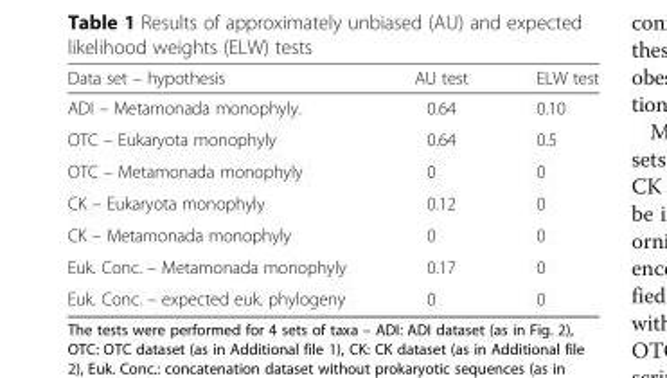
<table><thead><tr><td>Data set – hypothesis</td><td>AU test</td><td>ELW test</td></tr></thead><tbody><tr><td>ADI – Metamonada monophyly.</td><td>0.64</td><td>0.10</td></tr><tr><td>OTC – Eukaryota monophyly</td><td>0.64</td><td>0.5</td></tr><tr><td>OTC – Metamonada monophyly</td><td>0</td><td>0</td></tr><tr><td>CK – Eukaryota monophyly</td><td>0.12</td><td>0</td></tr><tr><td>CK – Metamonada monophyly</td><td>0</td><td>0</td></tr><tr><td>Euk. Conc. – Metamonada monophyly</td><td>0.17</td><td>0</td></tr><tr><td>Euk. Conc. – expected euk. phylogeny</td><td>0</td><td>0</td></tr></tbody></table>